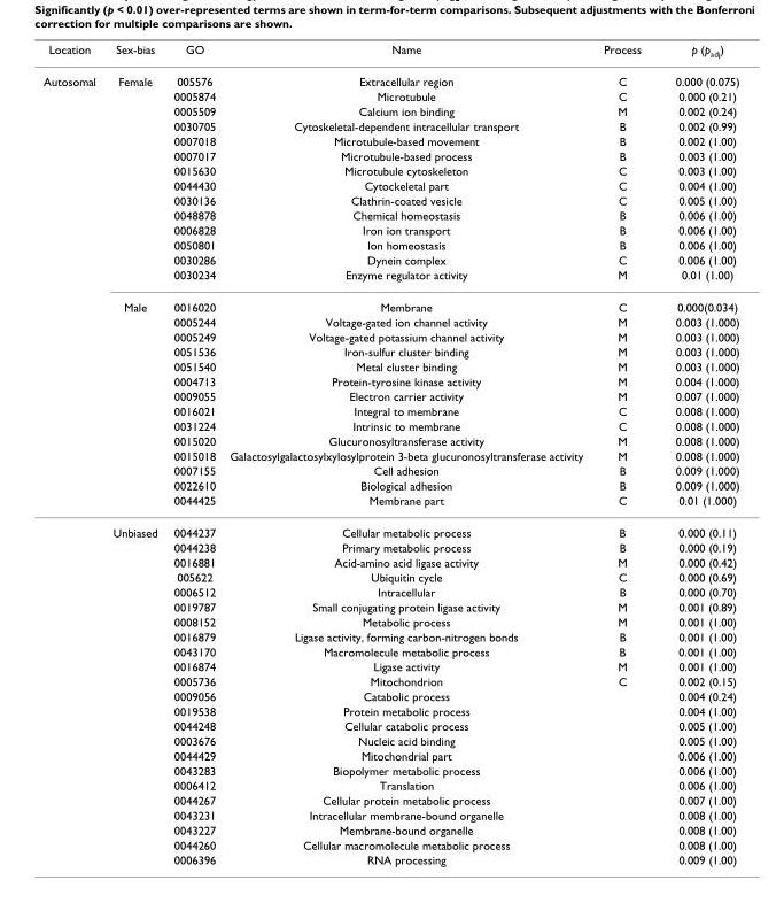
<table><thead><tr><td>Location</td><td>Sex-bias</td><td>GO</td><td>Name</td><td>Process</td><td>p (p<sub>adj</sub>)</td></tr></thead><tbody><tr><td rowspan="51">Autosomal</td><td>Female</td><td>005576</td><td>Extracellular region</td><td>C</td><td>0.000 (0.075)</td></tr><tr><td></td><td>0005874</td><td>Microtubule</td><td>C</td><td>0.000 (0.21)</td></tr><tr><td></td><td>0005509</td><td>Calcium ion binding</td><td>M</td><td>0.002 (0.24)</td></tr><tr><td></td><td>0030705</td><td>Cytoskeletal-dependent intracellular transport</td><td>B</td><td>0.002 (0.99)</td></tr><tr><td></td><td>0007018</td><td>Microtubule-based movement</td><td>B</td><td>0.002 (1.00)</td></tr><tr><td></td><td>0007017</td><td>Microtubule-based process</td><td>B</td><td>0.003 (1.00)</td></tr><tr><td></td><td>0015630</td><td>Microtubule cytoskeleton</td><td>C</td><td>0.003 (1.00)</td></tr><tr><td></td><td>0044430</td><td>Cytockeletal part</td><td>C</td><td>0.004 (1.00)</td></tr><tr><td></td><td>0030136</td><td>Clathrin-coated vesicle</td><td>C</td><td>0.005 (1.00)</td></tr><tr><td></td><td>0048878</td><td>Chemical homeostasis</td><td>B</td><td>0.006 (1.00)</td></tr><tr><td></td><td>0006828</td><td>Iron ion transport</td><td>B</td><td>0.006 (1.00)</td></tr><tr><td></td><td>0050801</td><td>Ion homeostasis</td><td>B</td><td>0.006 (1.00)</td></tr><tr><td></td><td>0030286</td><td>Dynein complex</td><td>C</td><td>0.006 (1.00)</td></tr><tr><td></td><td>0030234</td><td>Enzyme regulator activity</td><td>M</td><td>0.01 (1.00)</td></tr><tr><td>Male</td><td>0016020</td><td>Membrane</td><td>C</td><td>0.000(0.034)</td></tr><tr><td></td><td>0005244</td><td>Voltage-gated ion channel activity</td><td>M</td><td>0.003 (1.000)</td></tr><tr><td></td><td>0005249</td><td>Voltage-gated potassium channel activity</td><td>M</td><td>0.003 (1.000)</td></tr><tr><td></td><td>0051536</td><td>Iron-sulfur cluster binding</td><td>M</td><td>0.003 (1.000)</td></tr><tr><td></td><td>0051540</td><td>Metal cluster binding</td><td>M</td><td>0.003 (1.000)</td></tr><tr><td></td><td>0004713</td><td>Protein-tyrosine kinase activity</td><td>M</td><td>0.004 (1.000)</td></tr><tr><td></td><td>0009055</td><td>Electron carrier activity</td><td>M</td><td>0.007 (1.000)</td></tr><tr><td></td><td>0016021</td><td>Integral to membrane</td><td>C</td><td>0.008 (1.000)</td></tr><tr><td></td><td>0031224</td><td>Intrinsic to membrane</td><td>C</td><td>0.008 (1.000)</td></tr><tr><td></td><td>0015020</td><td>Glucuronosyltransferase activity</td><td>M</td><td>0.008 (1.000)</td></tr><tr><td></td><td>0015018</td><td>Galactosylgalactosylxylosylprotein 3-beta glucuronosyltransferase activity</td><td>M</td><td>0.008 (1.000)</td></tr><tr><td></td><td>0007155</td><td>Cell adhesion</td><td>B</td><td>0.009 (1.000)</td></tr><tr><td></td><td>0022610</td><td>Biological adhesion</td><td>B</td><td>0.009 (1.000)</td></tr><tr><td></td><td>0044425</td><td>Membrane part</td><td>C</td><td>0.01 (1.000)</td></tr><tr><td>Unbiased</td><td>0044237</td><td>Cellular metabolic process</td><td>B</td><td>0.000 (0.11)</td></tr><tr><td></td><td>0044238</td><td>Primary metabolic process</td><td>B</td><td>0.000 (0.19)</td></tr><tr><td></td><td>0016881</td><td>Acid-amino acid ligase activity</td><td>M</td><td>0.000 (0.42)</td></tr><tr><td></td><td>005622</td><td>Ubiquitin cycle</td><td>C</td><td>0.000 (0.69)</td></tr><tr><td></td><td>0006512</td><td>Intracellular</td><td>B</td><td>0.000 (0.70)</td></tr><tr><td></td><td>0019787</td><td>Small conjugating protein ligase activity</td><td>M</td><td>0.001 (0.89)</td></tr><tr><td></td><td>0008152</td><td>Metabolic process</td><td>M</td><td>0.001 (1.00)</td></tr><tr><td></td><td>0016879</td><td>Ligase activity, forming carbon-nitrogen bonds</td><td>B</td><td>0.001 (1.00)</td></tr><tr><td></td><td>0043170</td><td>Macromolecule metabolic process</td><td>B</td><td>0.001 (1.00)</td></tr><tr><td></td><td>0016874</td><td>Ligase activity</td><td>M</td><td>0.001 (1.00)</td></tr><tr><td></td><td>0005736</td><td>Mitochondrion</td><td>C</td><td>0.002 (0.15)</td></tr><tr><td></td><td>0009056</td><td>Catabolic process</td><td></td><td>0.004 (0.24)</td></tr><tr><td></td><td>0019538</td><td>Protein metabolic process</td><td></td><td>0.004 (1.00)</td></tr><tr><td></td><td>0044248</td><td>Cellular catabolic process</td><td></td><td>0.005 (1.00)</td></tr><tr><td></td><td>0003676</td><td>Nucleic acid binding</td><td></td><td>0.005 (1.00)</td></tr><tr><td></td><td>0044429</td><td>Mitochondrial part</td><td></td><td>0.006 (1.00)</td></tr><tr><td></td><td>0043283</td><td>Biopolymer metabolic process</td><td></td><td>0.006 (1.00)</td></tr><tr><td></td><td>0006412</td><td>Translation</td><td></td><td>0.006 (1.00)</td></tr><tr><td></td><td>0044267</td><td>Cellular protein metabolic process</td><td></td><td>0.007 (1.00)</td></tr><tr><td></td><td>0043231</td><td>Intracellular membrane-bound organelle</td><td></td><td>0.008 (1.00)</td></tr><tr><td></td><td>0043227</td><td>Membrane-bound organelle</td><td></td><td>0.008 (1.00)</td></tr><tr><td></td><td>0044260</td><td>Cellular macromolecule metabolic process</td><td></td><td>0.008 (1.00)</td></tr><tr><td></td><td>0006396</td><td>RNA processing</td><td></td><td>0.009 (1.00)</td></tr></tbody></table>